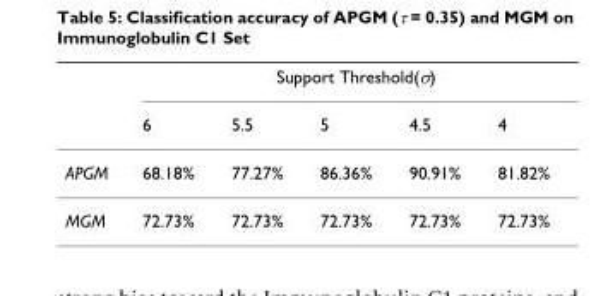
<table><thead><tr><td rowspan="2"></td><td colspan="5">Support Threshold(σ)</td></tr><tr><td>6</td><td>5.5</td><td>5</td><td>4.5</td><td>4</td></tr></thead><tbody><tr><td>APGM</td><td>68.18%</td><td>77.27%</td><td>86.36%</td><td>90.91%</td><td>81.82%</td></tr><tr><td>MGM</td><td>72.73%</td><td>72.73%</td><td>72.73%</td><td>72.73%</td><td>72.73%</td></tr></tbody></table>